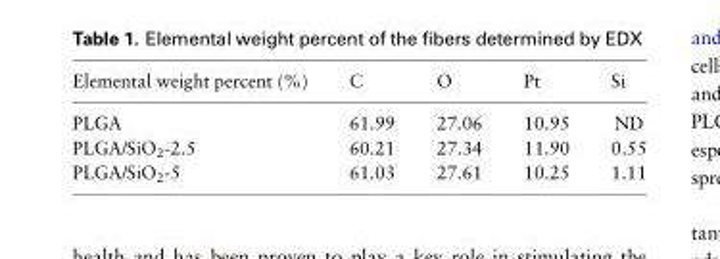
<table><thead><tr><td>Elemental weight percent (%)</td><td>C</td><td>O</td><td>Pt</td><td>Si</td></tr></thead><tbody><tr><td>PLGA</td><td>61.99</td><td>27.06</td><td>10.95</td><td>ND</td></tr><tr><td>PLGA/SiO<sub>2</sub>-2.5</td><td>60.21</td><td>27.34</td><td>11.90</td><td>0.55</td></tr><tr><td>PLGA/SiO<sub>2</sub>-5</td><td>61.03</td><td>27.61</td><td>10.25</td><td>1.11</td></tr></tbody></table>